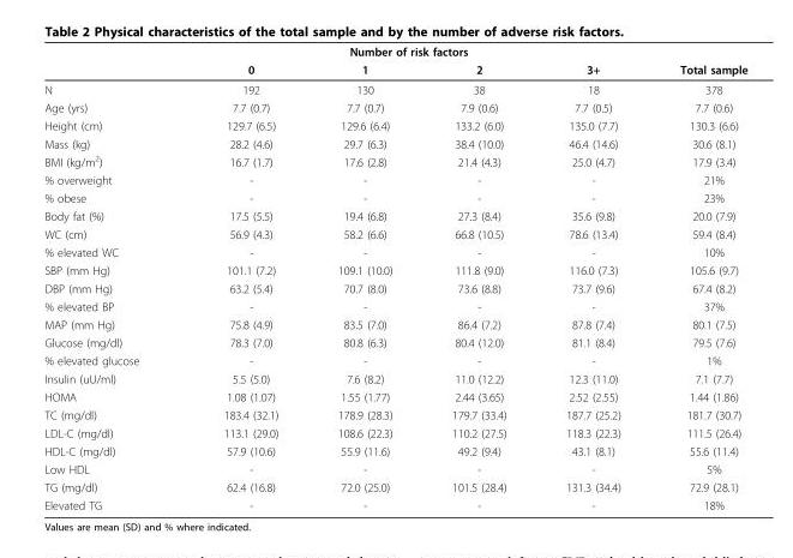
<table><thead><tr><td colspan="6">Number of risk factors</td></tr><tr><td></td><td>0</td><td>1</td><td>2</td><td>3+</td><td>Total sample</td></tr></thead><tbody><tr><td>N</td><td>192</td><td>130</td><td>38</td><td>18</td><td>378</td></tr><tr><td>Age (yrs)</td><td>7.7 (0.7)</td><td>7.7 (0.7)</td><td>7.9 (0.6)</td><td>7.7 (0.5)</td><td>7.7 (0.6)</td></tr><tr><td>Height (cm)</td><td>129.7 (6.5)</td><td>129.6 (6.4)</td><td>133.2 (6.0)</td><td>135.0 (7.7)</td><td>130.3 (6.6)</td></tr><tr><td>Mass (kg)</td><td>28.2 (4.6)</td><td>29.7 (6.3)</td><td>38.4 (10.0)</td><td>46.4 (14.6)</td><td>30.6 (8.1)</td></tr><tr><td>BMI (kg/m<sup>2</sup>)</td><td>16.7 (1.7)</td><td>17.6 (2.8)</td><td>21.4 (4.3)</td><td>25.0 (4.7)</td><td>17.9 (3.4)</td></tr><tr><td>% overweight</td><td>-</td><td>-</td><td>-</td><td>-</td><td>21%</td></tr><tr><td>% obese</td><td>-</td><td>-</td><td>-</td><td>-</td><td>23%</td></tr><tr><td>Body fat (%)</td><td>17.5 (5.5)</td><td>19.4 (6.8)</td><td>27.3 (8.4)</td><td>35.6 (9.8)</td><td>20.0 (7.9)</td></tr><tr><td>WC (cm)</td><td>56.9 (4.3)</td><td>58.2 (6.6)</td><td>66.8 (10.5)</td><td>78.6 (13.4)</td><td>59.4 (8.4)</td></tr><tr><td>% elevated WC</td><td>-</td><td>-</td><td>-</td><td>-</td><td>10%</td></tr><tr><td>SBP (mm Hg)</td><td>101.1 (7.2)</td><td>109.1 (10.0)</td><td>111.8 (9.0)</td><td>116.0 (7.3)</td><td>105.6 (9.7)</td></tr><tr><td>DBP (mm Hg)</td><td>63.2 (5.4)</td><td>70.7 (8.0)</td><td>73.6 (8.8)</td><td>73.7 (9.6)</td><td>67.4 (8.2)</td></tr><tr><td>% elevated BP</td><td>-</td><td>-</td><td>-</td><td>-</td><td>37%</td></tr><tr><td>MAP (mm Hg)</td><td>75.8 (4.9)</td><td>83.5 (7.0)</td><td>86.4 (7.2)</td><td>87.8 (7.4)</td><td>80.1 (7.5)</td></tr><tr><td>Glucose (mg/dl)</td><td>78.3 (7.0)</td><td>80.8 (6.3)</td><td>80.4 (12.0)</td><td>81.1 (8.4)</td><td>79.5 (7.6)</td></tr><tr><td>% elevated glucose</td><td>-</td><td>-</td><td>-</td><td>-</td><td>1%</td></tr><tr><td>Insulin (uU/ml)</td><td>5.5 (5.0)</td><td>7.6 (8.2)</td><td>11.0 (12.2)</td><td>12.3 (11.0)</td><td>7.1 (7.7)</td></tr><tr><td>HOMA</td><td>1.08 (1.07)</td><td>1.55 (1.77)</td><td>2.44 (3.65)</td><td>2.52 (2.55)</td><td>1.44 (1.86)</td></tr><tr><td>TC (mg/dl)</td><td>183.4 (32.1)</td><td>178.9 (28.3)</td><td>179.7 (33.4)</td><td>187.7 (25.2)</td><td>181.7 (30.7)</td></tr><tr><td>LDL-C (mg/dl)</td><td>113.1 (29.0)</td><td>108.6 (22.3)</td><td>110.2 (27.5)</td><td>118.3 (22.3)</td><td>111.5 (26.4)</td></tr><tr><td>HDL-C (mg/dl)</td><td>57.9 (10.6)</td><td>55.9 (11.6)</td><td>49.2 (9.4)</td><td>43.1 (8.1)</td><td>55.6 (11.4)</td></tr><tr><td>Low HDL</td><td>-</td><td>-</td><td>-</td><td>-</td><td>5%</td></tr><tr><td>TG (mg/dl)</td><td>62.4 (16.8)</td><td>72.0 (25.0)</td><td>101.5 (28.4)</td><td>131.3 (34.4)</td><td>72.9 (28.1)</td></tr><tr><td>Elevated TG</td><td>-</td><td>-</td><td>-</td><td>-</td><td>18%</td></tr></tbody></table>